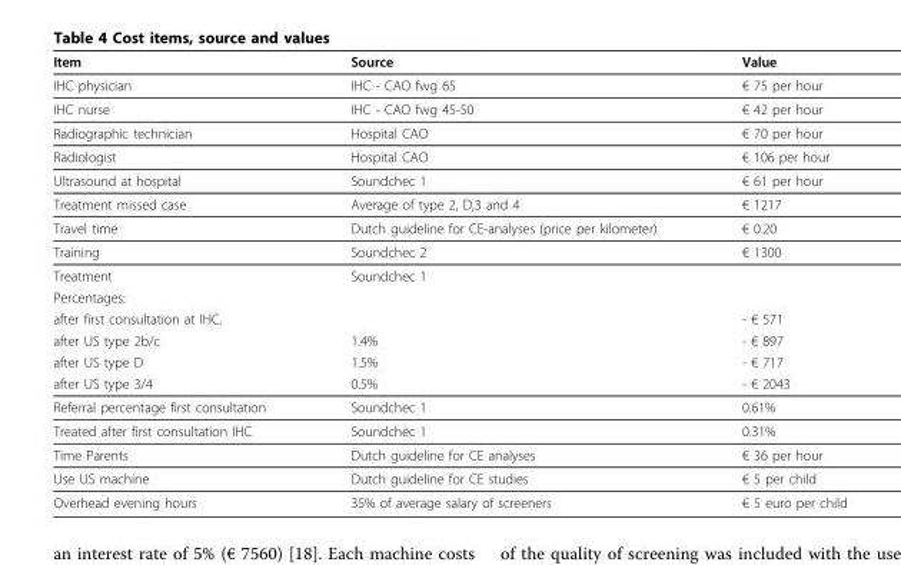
<table><thead><tr><td>Item</td><td>Source</td><td>Value</td></tr></thead><tbody><tr><td>IHC physician</td><td>IHC - CAO fwg 65</td><td>€ 75 per hour</td></tr><tr><td>IHC nurse</td><td>IHC - CAO fwg 45-50</td><td>€ 42 per hour</td></tr><tr><td>Radiographic technician</td><td>Hospital CAO</td><td>€ 70 per hour</td></tr><tr><td>Radiologist</td><td>Hospital CAO</td><td>€ 106 per hour</td></tr><tr><td>Ultrasound at hospital</td><td>Soundchec 1</td><td>€ 61 per hour</td></tr><tr><td>Treatment missed case</td><td>Average of type 2, D,3 and 4</td><td>€ 1217</td></tr><tr><td>Travel time</td><td>Dutch guideline for CE-analyses (price per kilometer)</td><td>€ 0.20</td></tr><tr><td>Training</td><td>Soundchec 2</td><td>€ 1300</td></tr><tr><td>Treatment</td><td>Soundchec 1</td><td></td></tr><tr><td colspan="3">Percentages:</td></tr><tr><td>after first consultation at IHC.</td><td></td><td>- € 571</td></tr><tr><td>after US type 2b/c</td><td>1.4%</td><td>- € 897</td></tr><tr><td>after US type D</td><td>1.5%</td><td>- € 717</td></tr><tr><td>after US type 3/4</td><td>0.5%</td><td>- € 2043</td></tr><tr><td>Referral percentage first consultation</td><td>Soundchec 1</td><td>0.61%</td></tr><tr><td>Treated after first consultation IHC</td><td>Soundchec 1</td><td>0.31%</td></tr><tr><td>Time Parents</td><td>Dutch guideline for CE analyses</td><td>€ 36 per hour</td></tr><tr><td>Use US machine</td><td>Dutch guideline for CE studies</td><td>€ 5 per child</td></tr><tr><td>Overhead evening hours</td><td>35% of average salary of screeners</td><td>€ 5 euro per child</td></tr></tbody></table>